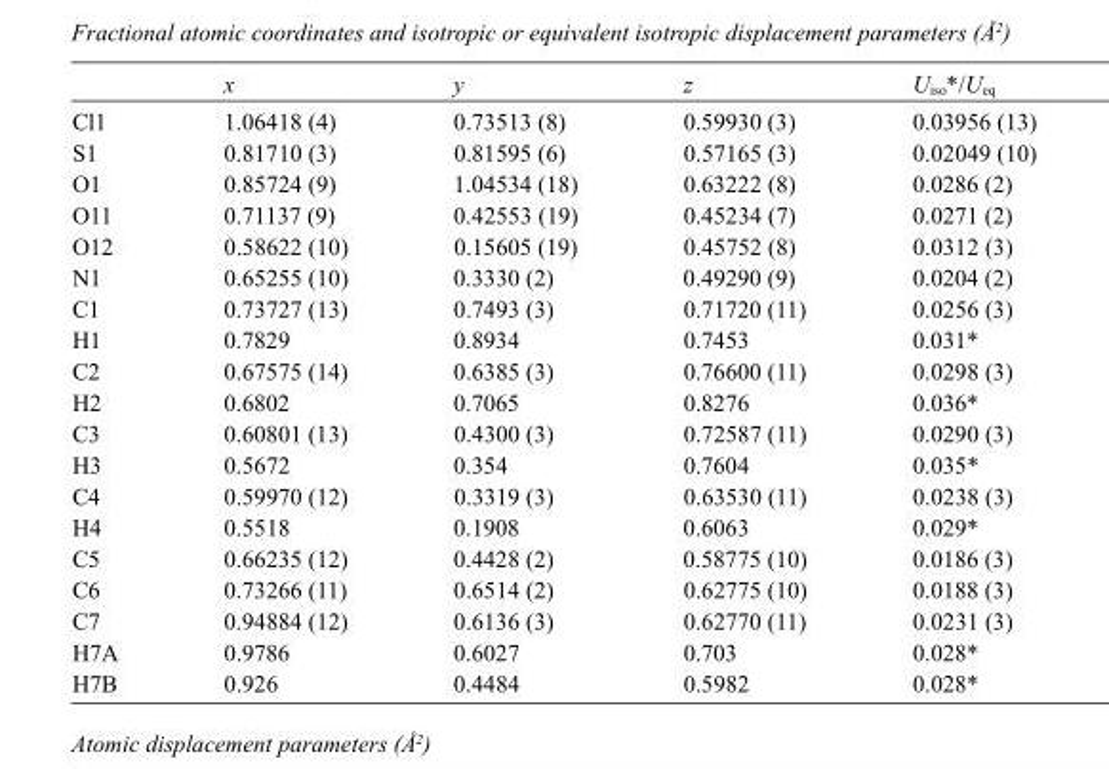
<table><thead><tr><td></td><td>x</td><td>y</td><td>z</td><td>U<sub>iso</sub>*/U<sub>eq</sub></td></tr></thead><tbody><tr><td>Cl1</td><td>1.06418 (4)</td><td>0.73513 (8)</td><td>0.59930 (3)</td><td>0.03956 (13)</td></tr><tr><td>S1</td><td>0.81710 (3)</td><td>0.81595 (6)</td><td>0.57165 (3)</td><td>0.02049 (10)</td></tr><tr><td>O1</td><td>0.85724 (9)</td><td>1.04534 (18)</td><td>0.63222 (8)</td><td>0.0286 (2)</td></tr><tr><td>O11</td><td>0.71137 (9)</td><td>0.42553 (19)</td><td>0.45234 (7)</td><td>0.0271 (2)</td></tr><tr><td>O12</td><td>0.58622 (10)</td><td>0.15605 (19)</td><td>0.45752 (8)</td><td>0.0312 (3)</td></tr><tr><td>N1</td><td>0.65255 (10)</td><td>0.3330 (2)</td><td>0.49290 (9)</td><td>0.0204 (2)</td></tr><tr><td>C1</td><td>0.73727 (13)</td><td>0.7493 (3)</td><td>0.71720 (11)</td><td>0.0256 (3)</td></tr><tr><td>H1</td><td>0.7829</td><td>0.8934</td><td>0.7453</td><td>0.031*</td></tr><tr><td>C2</td><td>0.67575 (14)</td><td>0.6385 (3)</td><td>0.76600 (11)</td><td>0.0298 (3)</td></tr><tr><td>H2</td><td>0.6802</td><td>0.7065</td><td>0.8276</td><td>0.036*</td></tr><tr><td>C3</td><td>0.60801 (13)</td><td>0.4300 (3)</td><td>0.72587 (11)</td><td>0.0290 (3)</td></tr><tr><td>H3</td><td>0.5672</td><td>0.354</td><td>0.7604</td><td>0.035*</td></tr><tr><td>C4</td><td>0.59970 (12)</td><td>0.3319 (3)</td><td>0.63530 (11)</td><td>0.0238 (3)</td></tr><tr><td>H4</td><td>0.5518</td><td>0.1908</td><td>0.6063</td><td>0.029*</td></tr><tr><td>C5</td><td>0.66235 (12)</td><td>0.4428 (2)</td><td>0.58775 (10)</td><td>0.0186 (3)</td></tr><tr><td>C6</td><td>0.73266 (11)</td><td>0.6514 (2)</td><td>0.62775 (10)</td><td>0.0188 (3)</td></tr><tr><td>C7</td><td>0.94884 (12)</td><td>0.6136 (3)</td><td>0.62770 (11)</td><td>0.0231 (3)</td></tr><tr><td>H7A</td><td>0.9786</td><td>0.6027</td><td>0.703</td><td>0.028*</td></tr><tr><td>H7B</td><td>0.926</td><td>0.4484</td><td>0.5982</td><td>0.028*</td></tr></tbody></table>